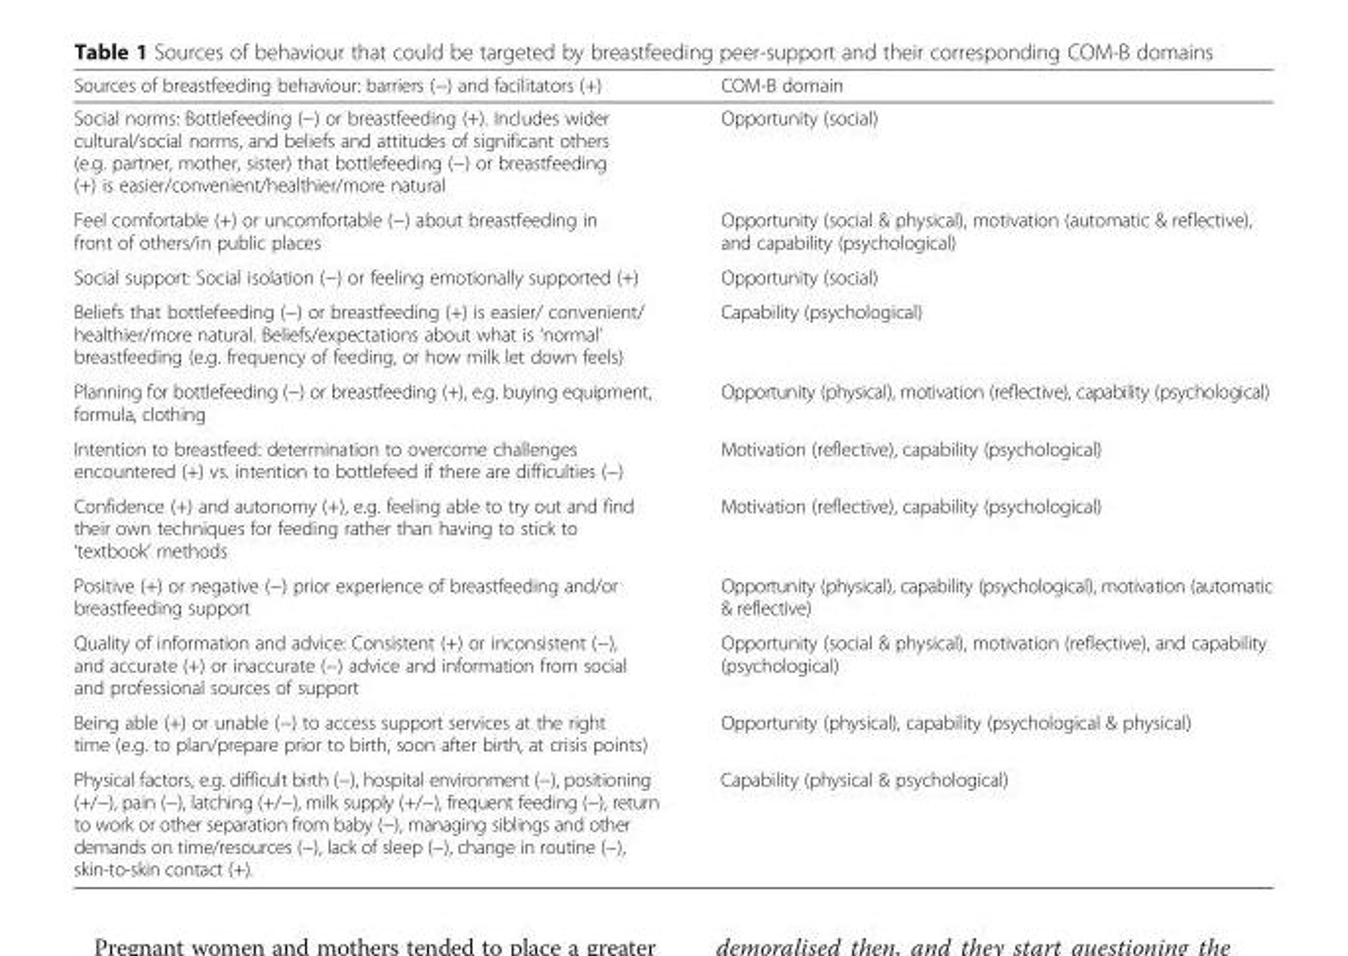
<table><thead><tr><td>Sources of breastfeeding behaviour: barriers (−) and facilitators (+)</td><td>COM-B domain</td></tr></thead><tbody><tr><td>Social norms: Bottlefeeding (−) or breastfeeding (+). Includes wider cultural/social norms, and beliefs and attitudes of significant others (e.g. partner, mother, sister) that bottlefeeding (−) or breastfeeding (+) is easier/convenient/healthier/more natural</td><td>Opportunity (social)</td></tr><tr><td>Feel comfortable (+) or uncomfortable (−) about breastfeeding in front of others/in public places</td><td>Opportunity (social &amp; physical), motivation (automatic &amp; reflective), and capability (psychological)</td></tr><tr><td>Social support: Social isolation (−) or feeling emotionally supported (+)</td><td>Opportunity (social)</td></tr><tr><td>Beliefs that bottlefeeding (−) or breastfeeding (+) is easier/ convenient/ healthier/more natural. Beliefs/expectations about what is ‘normal’ breastfeeding (e.g. frequency of feeding, or how milk let down feels)</td><td>Capability (psychological)</td></tr><tr><td>Planning for bottlefeeding (−) or breastfeeding (+), e.g. buying equipment, formula, clothing</td><td>Opportunity (physical), motivation (reflective), capability (psychological)</td></tr><tr><td>Intention to breastfeed: determination to overcome challenges encountered (+) vs. intention to bottlefeed if there are difficulties (−)</td><td>Motivation (reflective), capability (psychological)</td></tr><tr><td>Confidence (+) and autonomy (+), e.g. feeling able to try out and find their own techniques for feeding rather than having to stick to ‘textbook’ methods</td><td>Motivation (reflective), capability (psychological)</td></tr><tr><td>Positive (+) or negative (−) prior experience of breastfeeding and/or breastfeeding support</td><td>Opportunity (physical), capability (psychological), motivation (automatic &amp; reflective)</td></tr><tr><td>Quality of information and advice: Consistent (+) or inconsistent (−), and accurate (+) or inaccurate (−) advice and information from social and professional sources of support</td><td>Opportunity (social &amp; physical), motivation (reflective), and capability (psychological)</td></tr><tr><td>Being able (+) or unable (−) to access support services at the right time (e.g. to plan/prepare prior to birth, soon after birth, at crisis points)</td><td>Opportunity (physical), capability (psychological &amp; physical)</td></tr><tr><td>Physical factors, e.g. difficult birth (−), hospital environment (−), positioning (+/−), pain (−), latching (+/−), milk supply (+/−), frequent feeding (−), return to work or other separation from baby (−), managing siblings and other demands on time/resources (−), lack of sleep (−), change in routine (−), skin-to-skin contact (+).</td><td>Capability (physical &amp; psychological)</td></tr></tbody></table>